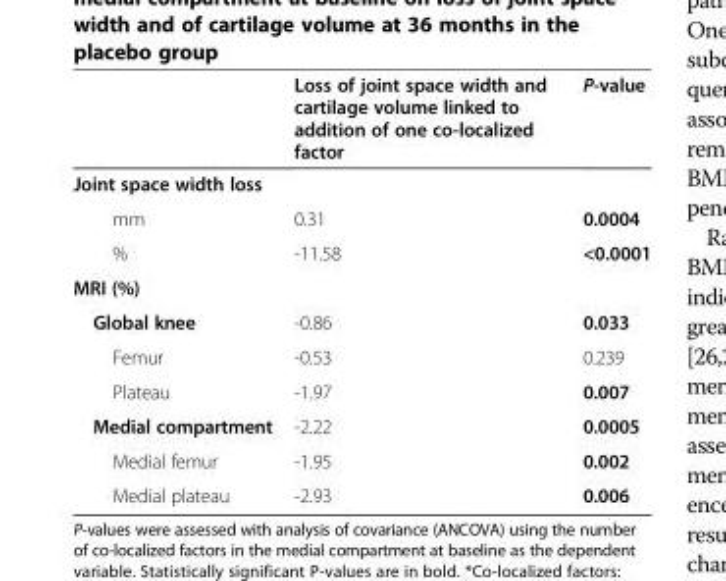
<table><thead><tr><td></td><td>Loss of joint space width and cartilage volume linked to addition of one co-localized factor</td><td>P-value</td></tr></thead><tbody><tr><td colspan="3">Joint space width loss</td></tr><tr><td>mm</td><td>0.31</td><td>0.0004</td></tr><tr><td>%</td><td>-11.58</td><td>&lt;0.0001</td></tr><tr><td colspan="3">MRI (%)</td></tr><tr><td>Global knee</td><td>-0.86</td><td>0.033</td></tr><tr><td>Femur</td><td>-0.53</td><td>0.239</td></tr><tr><td>Plateau</td><td>-1.97</td><td>0.007</td></tr><tr><td>Medial compartment</td><td>-2.22</td><td>0.0005</td></tr><tr><td>Medial femur</td><td>-1.95</td><td>0.002</td></tr><tr><td>Medial plateau</td><td>-2.93</td><td>0.006</td></tr></tbody></table>